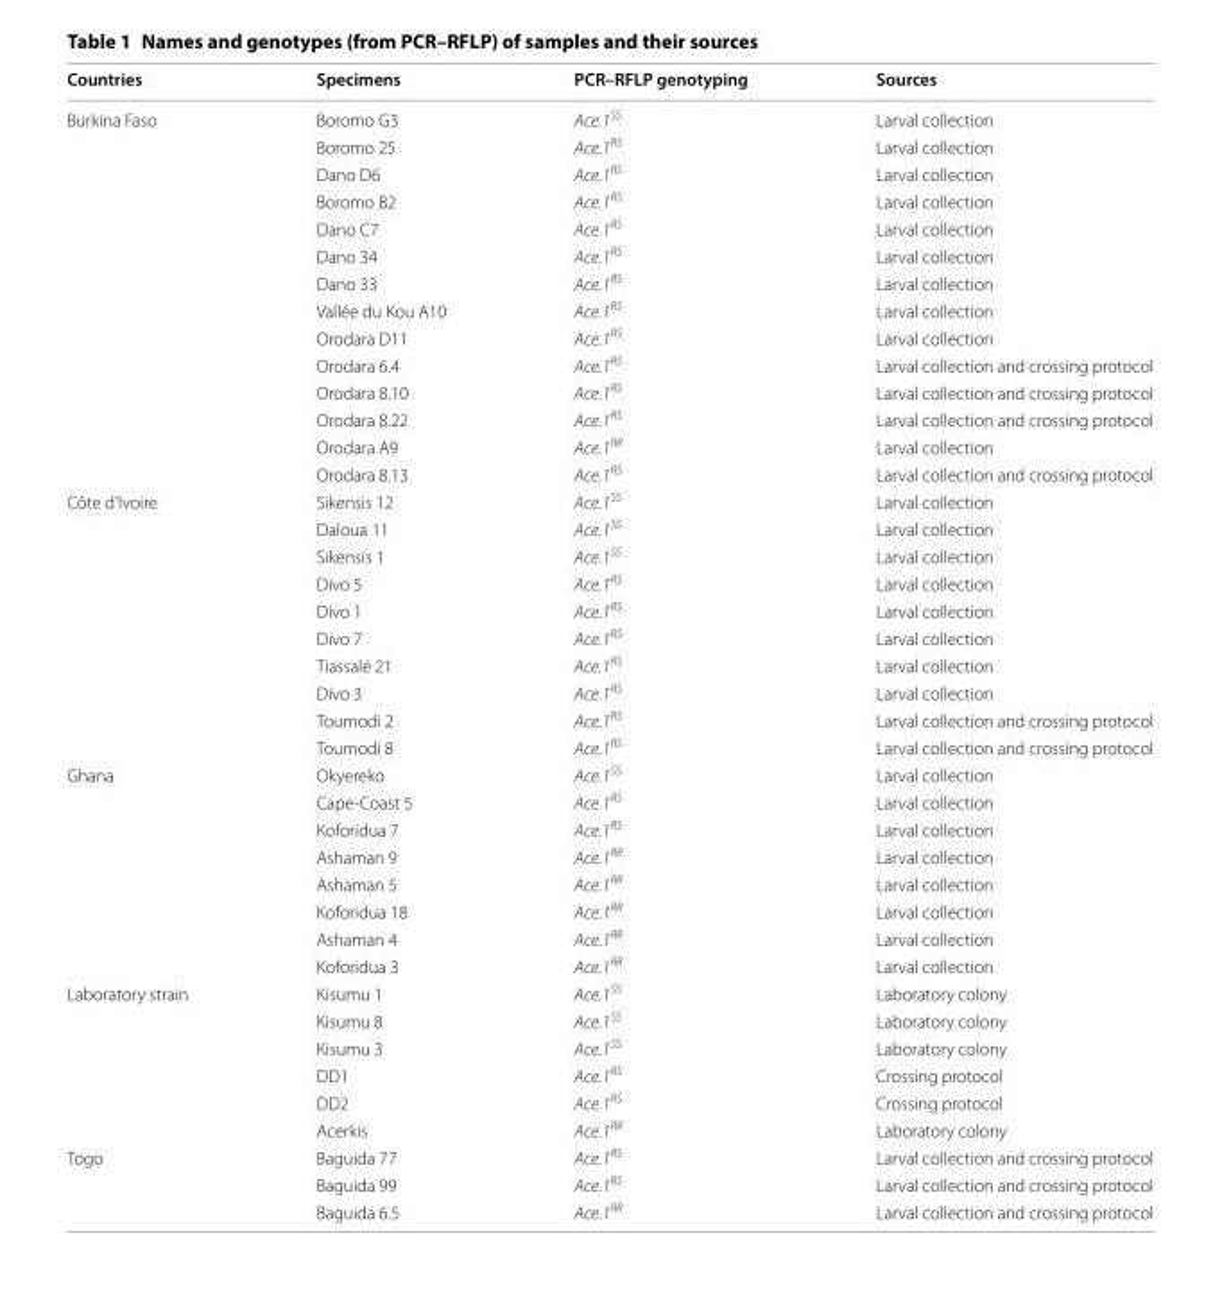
<table><thead><tr><td>Countries</td><td>Specimens</td><td>PCR–RFLP genotyping</td><td>Sources</td></tr></thead><tbody><tr><td rowspan="14">Burkina Faso</td><td>Boromo G3</td><td>Ace.1<sup>SS</sup></td><td>Larval collection</td></tr><tr><td>Boromo 25</td><td>Ace.1<sup>RS</sup></td><td>Larval collection</td></tr><tr><td>Dano D6</td><td>Ace.1<sup>RS</sup></td><td>Larval collection</td></tr><tr><td>Boromo B2</td><td>Ace.1<sup>RS</sup></td><td>Larval collection</td></tr><tr><td>Dano C7</td><td>Ace.1<sup>RS</sup></td><td>Larval collection</td></tr><tr><td>Dano 34</td><td>Ace.1<sup>RS</sup></td><td>Larval collection</td></tr><tr><td>Dano 33</td><td>Ace.1<sup>RS</sup></td><td>Larval collection</td></tr><tr><td>Vallée du Kou A10</td><td>Ace.1<sup>RS</sup></td><td>Larval collection</td></tr><tr><td>Orodara D11</td><td>Ace.1<sup>RS</sup></td><td>Larval collection</td></tr><tr><td>Orodara 6.4</td><td>Ace.1<sup>RS</sup></td><td>Larval collection and crossing protocol</td></tr><tr><td>Orodara 8.10</td><td>Ace.1<sup>RS</sup></td><td>Larval collection and crossing protocol</td></tr><tr><td>Orodara 8.22</td><td>Ace.1<sup>RS</sup></td><td>Larval collection and crossing protocol</td></tr><tr><td>Orodara A9</td><td>Ace.1<sup>RR</sup></td><td>Larval collection</td></tr><tr><td>Orodara 8.13</td><td>Ace.1<sup>RS</sup></td><td>Larval collection and crossing protocol</td></tr><tr><td rowspan="10">Côte d’Ivoire</td><td>Sikensis 12</td><td>Ace.1<sup>SS</sup></td><td>Larval collection</td></tr><tr><td>Daloua 11</td><td>Ace.1<sup>SS</sup></td><td>Larval collection</td></tr><tr><td>Sikensis 1</td><td>Ace.1<sup>SS</sup></td><td>Larval collection</td></tr><tr><td>Divo 5</td><td>Ace.1<sup>RS</sup></td><td>Larval collection</td></tr><tr><td>Divo 1</td><td>Ace.1<sup>RS</sup></td><td>Larval collection</td></tr><tr><td>Divo 7</td><td>Ace.1<sup>RS</sup></td><td>Larval collection</td></tr><tr><td>Tiassalé 21</td><td>Ace.1<sup>RS</sup></td><td>Larval collection</td></tr><tr><td>Divo 3</td><td>Ace.1<sup>RS</sup></td><td>Larval collection</td></tr><tr><td>Toumodi 2</td><td>Ace.1<sup>RS</sup></td><td>Larval collection and crossing protocol</td></tr><tr><td>Toumodi 8</td><td>Ace.1<sup>RS</sup></td><td>Larval collection and crossing protocol</td></tr><tr><td rowspan="8">Ghana</td><td>Okyereko</td><td>Ace.1<sup>SS</sup></td><td>Larval collection</td></tr><tr><td>Cape-Coast 5</td><td>Ace.1<sup>RS</sup></td><td>Larval collection</td></tr><tr><td>Koforidua 7</td><td>Ace.1<sup>RS</sup></td><td>Larval collection</td></tr><tr><td>Ashaman 9</td><td>Ace.1<sup>RR</sup></td><td>Larval collection</td></tr><tr><td>Ashaman 5</td><td>Ace.1<sup>RR</sup></td><td>Larval collection</td></tr><tr><td>Koforidua 18</td><td>Ace.1<sup>RR</sup></td><td>Larval collection</td></tr><tr><td>Ashaman 4</td><td>Ace.1<sup>RR</sup></td><td>Larval collection</td></tr><tr><td>Koforidua 3</td><td>Ace.1<sup>RR</sup></td><td>Larval collection</td></tr><tr><td rowspan="6">Laboratory strain</td><td>Kisumu 1</td><td>Ace.1<sup>SS</sup></td><td>Laboratory colony</td></tr><tr><td>Kisumu 8</td><td>Ace.1<sup>SS</sup></td><td>Laboratory colony</td></tr><tr><td>Kisumu 3</td><td>Ace.1<sup>SS</sup></td><td>Laboratory colony</td></tr><tr><td>DD1</td><td>Ace.1<sup>RS</sup></td><td>Crossing protocol</td></tr><tr><td>DD2</td><td>Ace.1<sup>RS</sup></td><td>Crossing protocol</td></tr><tr><td>Acerkis</td><td>Ace.1<sup>RR</sup></td><td>Laboratory colony</td></tr><tr><td rowspan="3">Togo</td><td>Baguida 77</td><td>Ace.1<sup>RS</sup></td><td>Larval collection and crossing protocol</td></tr><tr><td>Baguida 99</td><td>Ace.1<sup>RS</sup></td><td>Larval collection and crossing protocol</td></tr><tr><td>Baguida 6.5</td><td>Ace.1<sup>RR</sup></td><td>Larval collection and crossing protocol</td></tr></tbody></table>